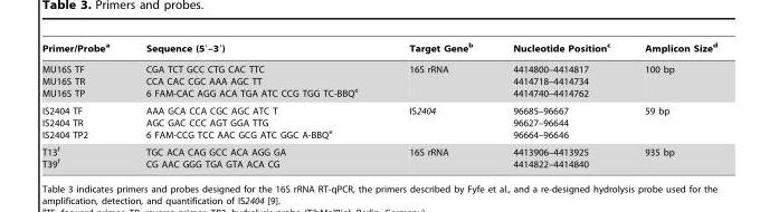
<table><thead><tr><td>Primer/Probe<sup>a</sup></td><td>Sequence (5′–3′)</td><td>Target Gene<sup>b</sup></td><td>Nucleotide Position<sup>c</sup></td><td>Amplicon Size<sup>d</sup></td></tr></thead><tbody><tr><td>MU16S TF MU16S TR MU16S TP</td><td>CGA TCT GCC CTG CAC TTC CCA CAC CGC AAA AGC TT 6 FAM-CAC AGG ACA TGA ATC CCG TGG TC-BBQ<sup>e</sup></td><td>16S rRNA</td><td>4414800–4414817 4414718–4414734 4414740–4414762</td><td>100 bp</td></tr><tr><td>IS2404 TF IS2404 TR IS2404 TP2</td><td>AAA GCA CCA CGC AGC ATC T AGC GAC CCC AGT GGA TTG 6 FAM-CCG TCC AAC GCG ATC GGC A-BBQ<sup>e</sup></td><td>IS2404</td><td>96685–96667 96627–96644 96664–96646</td><td>59 bp</td></tr><tr><td>T13<sup>f</sup> T39<sup>f</sup></td><td>TGC ACA CAG GCC ACA AGG GA CG AAC GGG TGA GTA ACA CG</td><td>16S rRNA</td><td>4413906–4413925 4414822–4414840</td><td>935 bp</td></tr></tbody></table>